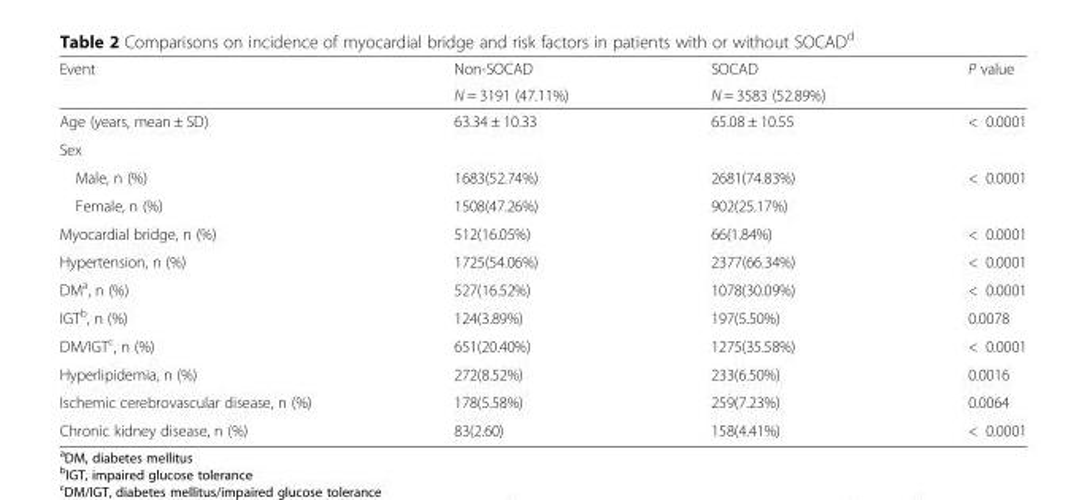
<table><thead><tr><td rowspan="2">Event</td><td rowspan="2">Non-SOCAD N = 3191 (47.11%)</td><td rowspan="2">SOCAD N = 3583 (52.89%)</td><td rowspan="2">P value</td></tr><tr></tr></thead><tbody><tr><td>Age (years, mean ± SD)</td><td>63.34 ± 10.33</td><td>65.08 ± 10.55</td><td>&lt; 0.0001</td></tr><tr><td colspan="4">Sex</td></tr><tr><td>Male, n (%)</td><td>1683(52.74%)</td><td>2681(74.83%)</td><td rowspan="2">&lt; 0.0001</td></tr><tr><td>Female, n (%)</td><td>1508(47.26%)</td><td>902(25.17%)</td></tr><tr><td>Myocardial bridge, n (%)</td><td>512(16.05%)</td><td>66(1.84%)</td><td>&lt; 0.0001</td></tr><tr><td>Hypertension, n (%)</td><td>1725(54.06%)</td><td>2377(66.34%)</td><td>&lt; 0.0001</td></tr><tr><td>DM<sup>a</sup>, n (%)</td><td>527(16.52%)</td><td>1078(30.09%)</td><td>&lt; 0.0001</td></tr><tr><td>IGT<sup>b</sup>, n (%)</td><td>124(3.89%)</td><td>197(5.50%)</td><td>0.0078</td></tr><tr><td>DM/IGT<sup>c</sup>, n (%)</td><td>651(20.40%)</td><td>1275(35.58%)</td><td>&lt; 0.0001</td></tr><tr><td>Hyperlipidemia, n (%)</td><td>272(8.52%)</td><td>233(6.50%)</td><td>0.0016</td></tr><tr><td>Ischemic cerebrovascular disease, n (%)</td><td>178(5.58%)</td><td>259(7.23%)</td><td>0.0064</td></tr><tr><td>Chronic kidney disease, n (%)</td><td>83(2.60)</td><td>158(4.41%)</td><td>&lt; 0.0001</td></tr></tbody></table>